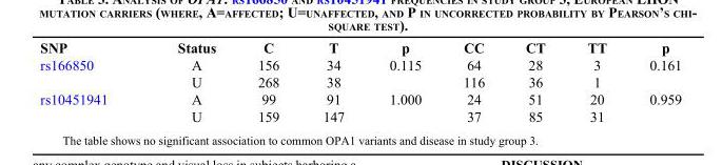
<table><thead><tr><td>SNP</td><td>Status</td><td>C</td><td>T</td><td>p</td><td>CC</td><td>CT</td><td>TT</td><td>p</td></tr></thead><tbody><tr><td rowspan="2">rs166850</td><td>A</td><td>156</td><td>34</td><td rowspan="2">0.115</td><td>64</td><td>28</td><td>3</td><td rowspan="2">0.161</td></tr><tr><td>U</td><td>268</td><td>38</td><td>116</td><td>36</td><td>1</td></tr><tr><td rowspan="2">rs10451941</td><td>A</td><td>99</td><td>91</td><td rowspan="2">1.000</td><td>24</td><td>51</td><td>20</td><td rowspan="2">0.959</td></tr><tr><td>U</td><td>159</td><td>147</td><td>37</td><td>85</td><td>31</td></tr></tbody></table>